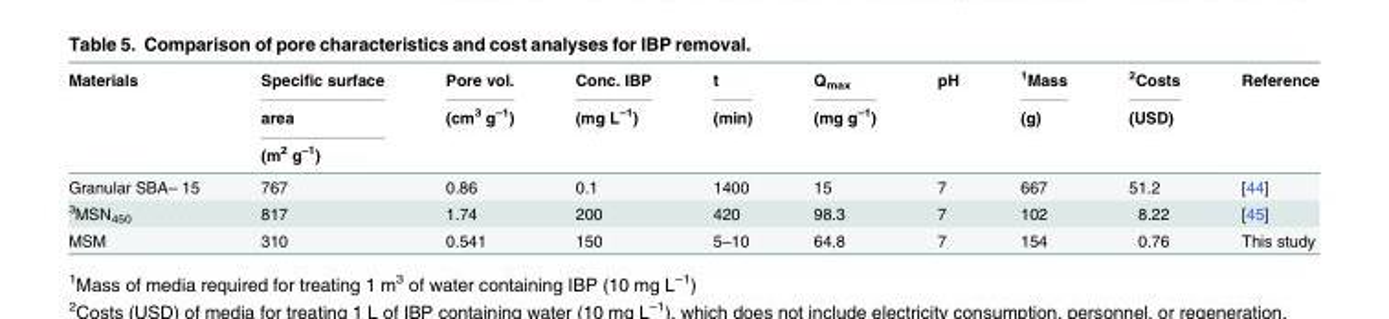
<table><thead><tr><td rowspan="3">Materials</td><td rowspan="3">Specific surface area (m<sup>2</sup> g<sup>–1</sup>)</td><td rowspan="3">Pore vol. (cm<sup>3</sup> g<sup>–1</sup>)</td><td rowspan="3">Conc. IBP (mg L<sup>–1</sup>)</td><td rowspan="3">t (min)</td><td rowspan="3">Q<sub>max</sub> (mg g<sup>–1</sup>)</td><td rowspan="3">pH</td><td rowspan="3"><sup>1</sup>Mass (g)</td><td rowspan="3"><sup>2</sup>Costs (USD)</td><td rowspan="3">Reference</td></tr><tr></tr><tr></tr></thead><tbody><tr><td>Granular SBA– 15</td><td>767</td><td>0.86</td><td>0.1</td><td>1400</td><td>15</td><td>7</td><td>667</td><td>51.2</td><td>[44]</td></tr><tr><td><sup>3</sup>MSN<sub>450</sub></td><td>817</td><td>1.74</td><td>200</td><td>420</td><td>98.3</td><td>7</td><td>102</td><td>8.22</td><td>[45]</td></tr><tr><td>MSM</td><td>310</td><td>0.541</td><td>150</td><td>5–10</td><td>64.8</td><td>7</td><td>154</td><td>0.76</td><td>This study</td></tr></tbody></table>